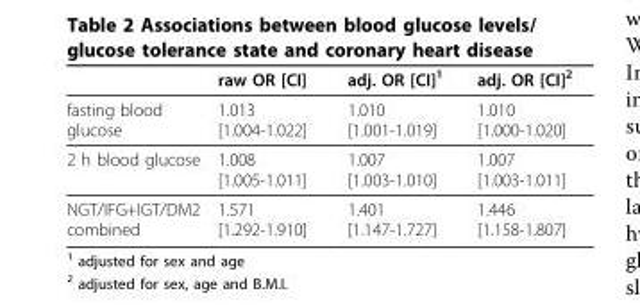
<table><thead><tr><td></td><td>raw OR [CI]</td><td>adj. OR [CI]<sup>1</sup></td><td>adj. OR [CI]<sup>2</sup></td></tr></thead><tbody><tr><td>fasting blood glucose</td><td>1.013 [1.004-1.022]</td><td>1.010 [1.001-1.019]</td><td>1.010 [1.000-1.020]</td></tr><tr><td>2 h blood glucose</td><td>1.008 [1.005-1.011]</td><td>1.007 [1.003-1.010]</td><td>1.007 [1.003-1.011]</td></tr><tr><td>NGT/IFG+IGT/DM2 combined</td><td>1.571 [1.292-1.910]</td><td>1.401 [1.147-1.727]</td><td>1.446 [1.158-1.807]</td></tr></tbody></table>